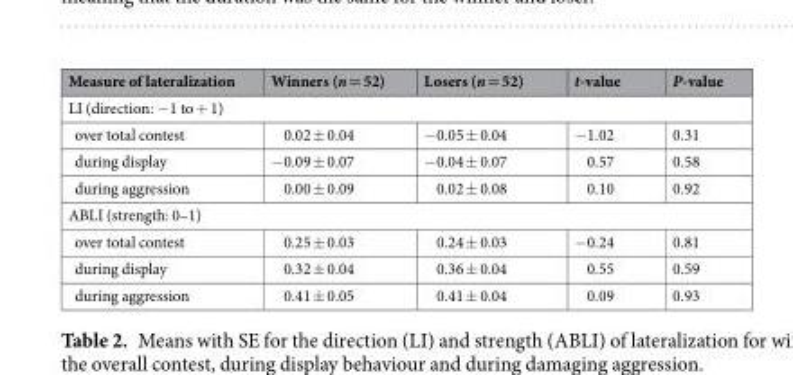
<table><thead><tr><td>Measure of lateralization</td><td>Winners (n = 52)</td><td>Losers (n = 52)</td><td>t-value</td><td>P-value</td></tr></thead><tbody><tr><td colspan="5">LI (direction: −1 to + 1)</td></tr><tr><td>over total contest</td><td>0.02 ± 0.04</td><td>−0.05 ± 0.04</td><td>−1.02</td><td>0.31</td></tr><tr><td>during display</td><td>−0.09 ± 0.07</td><td>−0.04 ± 0.07</td><td>0.57</td><td>0.58</td></tr><tr><td>during aggression</td><td>0.00 ± 0.09</td><td>0.02 ± 0.08</td><td>0.10</td><td>0.92</td></tr><tr><td colspan="5">ABLI (strength: 0–1)</td></tr><tr><td>over total contest</td><td>0.25 ± 0.03</td><td>0.24 ± 0.03</td><td>−0.24</td><td>0.81</td></tr><tr><td>during display</td><td>0.32 ± 0.04</td><td>0.36 ± 0.04</td><td>0.55</td><td>0.59</td></tr><tr><td>during aggression</td><td>0.41 ± 0.05</td><td>0.41 ± 0.04</td><td>0.09</td><td>0.93</td></tr></tbody></table>